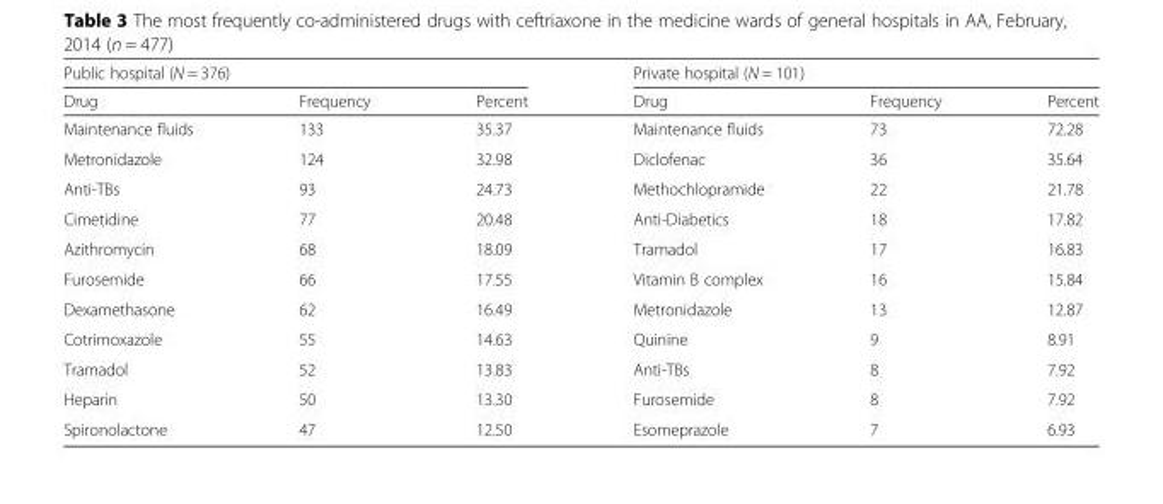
<table><thead><tr><td colspan="3">Public hospital (N = 376)</td><td colspan="3">Private hospital (N = 101)</td></tr><tr><td>Drug</td><td>Frequency</td><td>Percent</td><td>Drug</td><td>Frequency</td><td>Percent</td></tr></thead><tbody><tr><td>Maintenance fluids</td><td>133</td><td>35.37</td><td>Maintenance fluids</td><td>73</td><td>72.28</td></tr><tr><td>Metronidazole</td><td>124</td><td>32.98</td><td>Diclofenac</td><td>36</td><td>35.64</td></tr><tr><td>Anti-TBs</td><td>93</td><td>24.73</td><td>Methochlopramide</td><td>22</td><td>21.78</td></tr><tr><td>Cimetidine</td><td>77</td><td>20.48</td><td>Anti-Diabetics</td><td>18</td><td>17.82</td></tr><tr><td>Azithromycin</td><td>68</td><td>18.09</td><td>Tramadol</td><td>17</td><td>16.83</td></tr><tr><td>Furosemide</td><td>66</td><td>17.55</td><td>Vitamin B complex</td><td>16</td><td>15.84</td></tr><tr><td>Dexamethasone</td><td>62</td><td>16.49</td><td>Metronidazole</td><td>13</td><td>12.87</td></tr><tr><td>Cotrimoxazole</td><td>55</td><td>14.63</td><td>Quinine</td><td>9</td><td>8.91</td></tr><tr><td>Tramadol</td><td>52</td><td>13.83</td><td>Anti-TBs</td><td>8</td><td>7.92</td></tr><tr><td>Heparin</td><td>50</td><td>13.30</td><td>Furosemide</td><td>8</td><td>7.92</td></tr><tr><td>Spironolactone</td><td>47</td><td>12.50</td><td>Esomeprazole</td><td>7</td><td>6.93</td></tr></tbody></table>